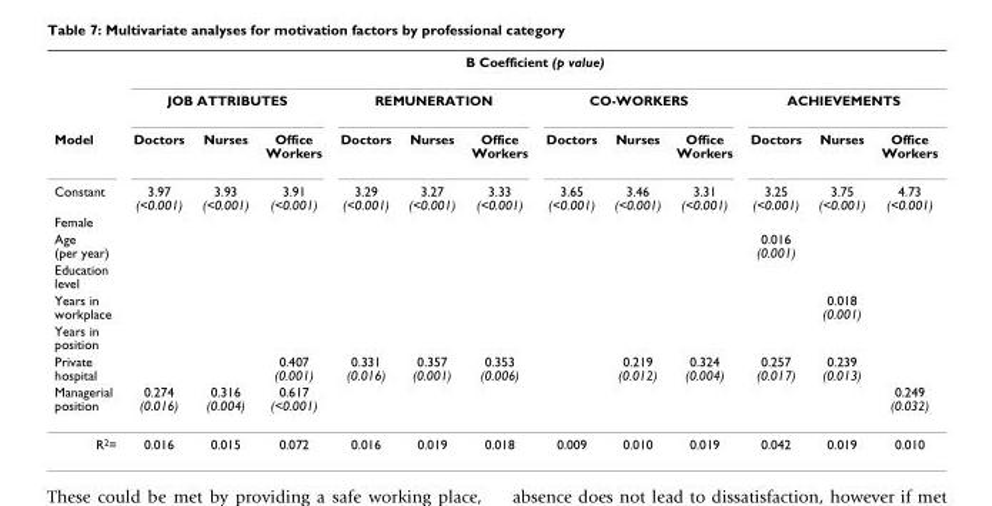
<table><thead><tr><td rowspan="11">Model Constant Female Age (per year) Education level Years in workplace Years in position Private hospital Managerial position</td><td colspan="12">B Coefficient (p value)</td></tr><tr><td colspan="3">JOB ATTRIBUTES</td><td colspan="3">REMUNERATION</td><td colspan="3">CO-WORKERS</td><td colspan="3">ACHIEVEMENTS</td></tr><tr><td rowspan="9">Doctors 3.97 (&lt;0.001) 0.274 (0.016)</td><td rowspan="9">Nurses 3.93 (&lt;0.001) 0.316 (0.004)</td><td rowspan="9">Office Workers 3.91 (&lt;0.001) 0.407 (0.001) 0.617 (&lt;0.001)</td><td rowspan="9">Doctors 3.29 (&lt;0.001) 0.331 (0.016)</td><td rowspan="9">Nurses 3.27 (&lt;0.001) 0.357 (0.001)</td><td rowspan="9">Office Workers 3.33 (&lt;0.001) 0.353 (0.006)</td><td rowspan="9">Doctors 3.65 (&lt;0.001)</td><td rowspan="9">Nurses 3.46 (&lt;0.001) 0.219 (0.012)</td><td rowspan="9">Office Workers 3.31 (&lt;0.001) 0.324 (0.004)</td><td rowspan="9">Doctors 3.25 (&lt;0.001) 0.016 (0.001) 0.257 (0.017)</td><td rowspan="9">Nurses 3.75 (&lt;0.001) 0.018 (0.001) 0.239 (0.013)</td><td rowspan="9">Office Workers 4.73 (&lt;0.001) 0.249 (0.032)</td></tr><tr></tr><tr></tr><tr></tr><tr></tr><tr></tr><tr></tr><tr></tr><tr></tr></thead><tbody><tr><td>R<sup>2</sup>=</td><td>0.016</td><td>0.015</td><td>0.072</td><td>0.016</td><td>0.019</td><td>0.018</td><td>0.009</td><td>0.010</td><td>0.019</td><td>0.042</td><td>0.019</td><td>0.010</td></tr></tbody></table>